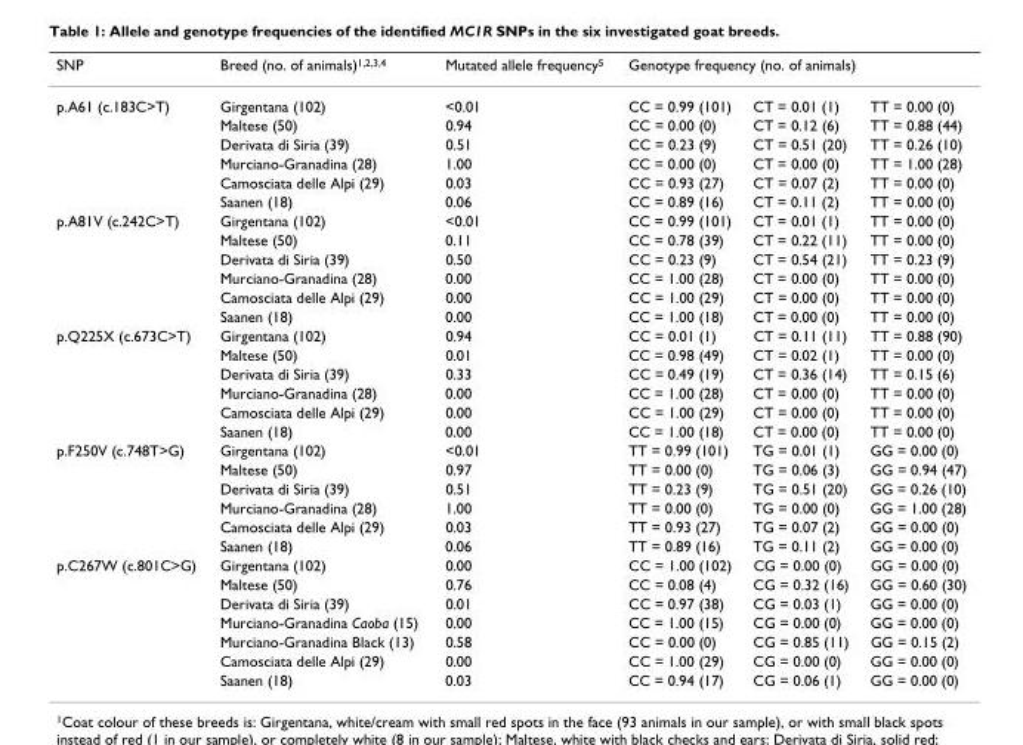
<table><thead><tr><td rowspan="2">SNP p.A61 (c.183C&gt;T)</td><td rowspan="2">Breed (no. of animals)<sup>1,2,3,4</sup> Girgentana (102)</td><td rowspan="2">Mutated allele frequency<sup>5</sup> &lt;0.01</td><td colspan="3">Genotype frequency (no. of animals)</td></tr><tr><td>CC = 0.99 (101)</td><td>CT = 0.01 (1)</td><td>TT = 0.00 (0)</td></tr></thead><tbody><tr><td></td><td>Maltese (50)</td><td>0.94</td><td>CC = 0.00 (0)</td><td>CT = 0.12 (6)</td><td>TT = 0.88 (44)</td></tr><tr><td></td><td>Derivata di Siria (39)</td><td>0.51</td><td>CC = 0.23 (9)</td><td>CT = 0.51 (20)</td><td>TT = 0.26 (10)</td></tr><tr><td></td><td>Murciano-Granadina (28)</td><td>1.00</td><td>CC = 0.00 (0)</td><td>CT = 0.00 (0)</td><td>TT = 1.00 (28)</td></tr><tr><td></td><td>Camosciata delle Alpi (29)</td><td>0.03</td><td>CC = 0.93 (27)</td><td>CT = 0.07 (2)</td><td>TT = 0.00 (0)</td></tr><tr><td></td><td>Saanen (18)</td><td>0.06</td><td>CC = 0.89 (16)</td><td>CT = 0.11 (2)</td><td>TT = 0.00 (0)</td></tr><tr><td rowspan="6">p.A81V (c.242C&gt;T)</td><td>Girgentana (102)</td><td>&lt;0.01</td><td>CC = 0.99 (101)</td><td>CT = 0.01 (1)</td><td>TT = 0.00 (0)</td></tr><tr><td>Maltese (50)</td><td>0.11</td><td>CC = 0.78 (39)</td><td>CT = 0.22 (11)</td><td>TT = 0.00 (0)</td></tr><tr><td>Derivata di Siria (39)</td><td>0.50</td><td>CC = 0.23 (9)</td><td>CT = 0.54 (21)</td><td>TT = 0.23 (9)</td></tr><tr><td>Murciano-Granadina (28)</td><td>0.00</td><td>CC = 1.00 (28)</td><td>CT = 0.00 (0)</td><td>TT = 0.00 (0)</td></tr><tr><td>Camosciata delle Alpi (29)</td><td>0.00</td><td>CC = 1.00 (29)</td><td>CT = 0.00 (0)</td><td>TT = 0.00 (0)</td></tr><tr><td>Saanen (18)</td><td>0.00</td><td>CC = 1.00 (18)</td><td>CT = 0.00 (0)</td><td>TT = 0.00 (0)</td></tr><tr><td rowspan="6">p.Q225X (c.673C&gt;T)</td><td>Girgentana (102)</td><td>0.94</td><td>CC = 0.01 (1)</td><td>CT = 0.11 (11)</td><td>TT = 0.88 (90)</td></tr><tr><td>Maltese (50)</td><td>0.01</td><td>CC = 0.98 (49)</td><td>CT = 0.02 (1)</td><td>TT = 0.00 (0)</td></tr><tr><td>Derivata di Siria (39)</td><td>0.33</td><td>CC = 0.49 (19)</td><td>CT = 0.36 (14)</td><td>TT = 0.15 (6)</td></tr><tr><td>Murciano-Granadina (28)</td><td>0.00</td><td>CC = 1.00 (28)</td><td>CT = 0.00 (0)</td><td>TT = 0.00 (0)</td></tr><tr><td>Camosciata delle Alpi (29)</td><td>0.00</td><td>CC = 1.00 (29)</td><td>CT = 0.00 (0)</td><td>TT = 0.00 (0)</td></tr><tr><td>Saanen (18)</td><td>0.00</td><td>CC = 1.00 (18)</td><td>CT = 0.00 (0)</td><td>TT = 0.00 (0)</td></tr><tr><td rowspan="6">p.F250V (c.748T&gt;G)</td><td>Girgentana (102)</td><td>&lt;0.01</td><td>TT = 0.99 (101)</td><td>TG = 0.01 (1)</td><td>GG = 0.00 (0)</td></tr><tr><td>Maltese (50)</td><td>0.97</td><td>TT = 0.00 (0)</td><td>TG = 0.06 (3)</td><td>GG = 0.94 (47)</td></tr><tr><td>Derivata di Siria (39)</td><td>0.51</td><td>TT = 0.23 (9)</td><td>TG = 0.51 (20)</td><td>GG = 0.26 (10)</td></tr><tr><td>Murciano-Granadina (28)</td><td>1.00</td><td>TT = 0.00 (0)</td><td>TG = 0.00 (0)</td><td>GG = 1.00 (28)</td></tr><tr><td>Camosciata delle Alpi (29)</td><td>0.03</td><td>TT = 0.93 (27)</td><td>TG = 0.07 (2)</td><td>GG = 0.00 (0)</td></tr><tr><td>Saanen (18)</td><td>0.06</td><td>TT = 0.89 (16)</td><td>TG = 0.11 (2)</td><td>GG = 0.00 (0)</td></tr><tr><td rowspan="7">p.C267W (c.801C&gt;G)</td><td>Girgentana (102)</td><td>0.00</td><td>CC = 1.00 (102)</td><td>CG = 0.00 (0)</td><td>GG = 0.00 (0)</td></tr><tr><td>Maltese (50)</td><td>0.76</td><td>CC = 0.08 (4)</td><td>CG = 0.32 (16)</td><td>GG = 0.60 (30)</td></tr><tr><td>Derivata di Siria (39)</td><td>0.01</td><td>CC = 0.97 (38)</td><td>CG = 0.03 (1)</td><td>GG = 0.00 (0)</td></tr><tr><td>Murciano-Granadina Caoba (15)</td><td>0.00</td><td>CC = 1.00 (15)</td><td>CG = 0.00 (0)</td><td>GG = 0.00 (0)</td></tr><tr><td>Murciano-Granadina Black (13)</td><td>0.58</td><td>CC = 0.00 (0)</td><td>CG = 0.85 (11)</td><td>GG = 0.15 (2)</td></tr><tr><td>Camosciata delle Alpi (29)</td><td>0.00</td><td>CC = 1.00 (29)</td><td>CG = 0.00 (0)</td><td>GG = 0.00 (0)</td></tr><tr><td>Saanen (18)</td><td>0.03</td><td>CC = 0.94 (17)</td><td>CG = 0.06 (1)</td><td>GG = 0.00 (0)</td></tr></tbody></table>